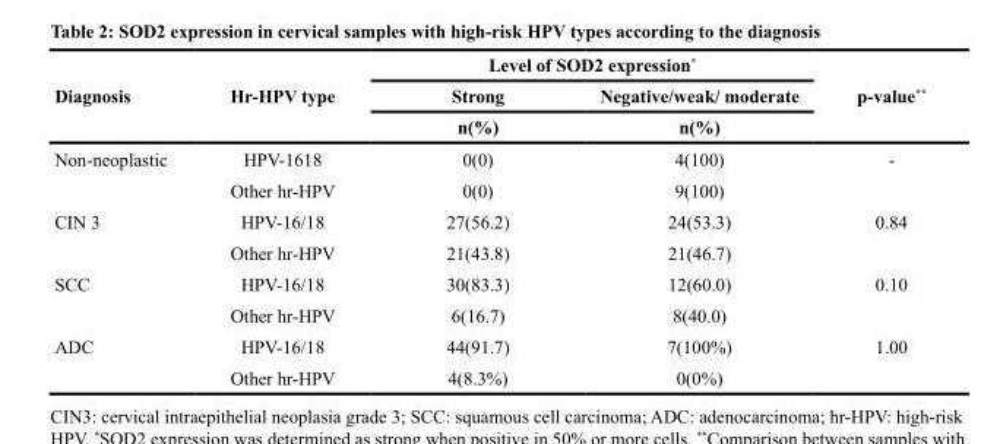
<table><thead><tr><td rowspan="3">Diagnosis</td><td rowspan="3">Hr-HPV type</td><td colspan="2">Level of SOD2 expression*</td><td rowspan="3">p-value**</td></tr><tr><td rowspan="2">Strong n(%)</td><td rowspan="2">Negative/weak/ moderate n(%)</td></tr><tr></tr></thead><tbody><tr><td rowspan="2">Non-neoplastic</td><td>HPV-1618</td><td>0(0)</td><td>4(100)</td><td>-</td></tr><tr><td>Other hr-HPV</td><td>0(0)</td><td>9(100)</td><td></td></tr><tr><td rowspan="2">CIN 3</td><td>HPV-16/18</td><td>27(56.2)</td><td>24(53.3)</td><td>0.84</td></tr><tr><td>Other hr-HPV</td><td>21(43.8)</td><td>21(46.7)</td><td></td></tr><tr><td rowspan="2">SCC</td><td>HPV-16/18</td><td>30(83.3)</td><td>12(60.0)</td><td>0.10</td></tr><tr><td>Other hr-HPV</td><td>6(16.7)</td><td>8(40.0)</td><td></td></tr><tr><td rowspan="2">ADC</td><td>HPV-16/18</td><td>44(91.7)</td><td>7(100%)</td><td>1.00</td></tr><tr><td>Other hr-HPV</td><td>4(8.3%)</td><td>0(0%)</td><td></td></tr></tbody></table>